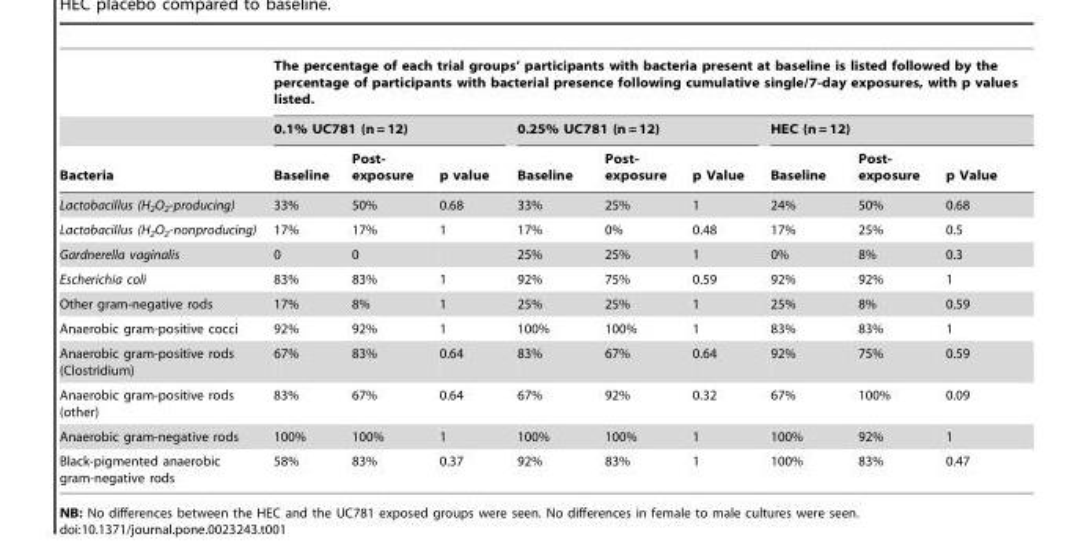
<table><thead><tr><td rowspan="3">Bacteria</td><td colspan="9">The percentage of each trial groups’ participants with bacteria present at baseline is listed followed by the percentage of participants with bacterial presence following cumulative single/7-day exposures, with p values listed.</td></tr><tr><td colspan="3">0.1% UC781 (n = 12)</td><td colspan="3">0.25% UC781 (n = 12)</td><td colspan="3">HEC (n = 12)</td></tr><tr><td>Baseline</td><td>Post- exposure</td><td>p value</td><td>Baseline</td><td>Post- exposure</td><td>p Value</td><td>Baseline</td><td>Post- exposure</td><td>p Value</td></tr></thead><tbody><tr><td>Lactobacillus (H<sub>2</sub>O<sub>2</sub>-producing)</td><td>33%</td><td>50%</td><td>0.68</td><td>33%</td><td>25%</td><td>1</td><td>24%</td><td>50%</td><td>0.68</td></tr><tr><td>Lactobacillus (H<sub>2</sub>O<sub>2</sub>-nonproducing)</td><td>17%</td><td>17%</td><td>1</td><td>17%</td><td>0%</td><td>0.48</td><td>17%</td><td>25%</td><td>0.5</td></tr><tr><td>Gardnerella vaginalis</td><td>0</td><td>0</td><td></td><td>25%</td><td>25%</td><td>1</td><td>0%</td><td>8%</td><td>0.3</td></tr><tr><td>Escherichia coli</td><td>83%</td><td>83%</td><td>1</td><td>92%</td><td>75%</td><td>0.59</td><td>92%</td><td>92%</td><td>1</td></tr><tr><td>Other gram-negative rods</td><td>17%</td><td>8%</td><td>1</td><td>25%</td><td>25%</td><td>1</td><td>25%</td><td>8%</td><td>0.59</td></tr><tr><td>Anaerobic gram-positive cocci</td><td>92%</td><td>92%</td><td>1</td><td>100%</td><td>100%</td><td>1</td><td>83%</td><td>83%</td><td>1</td></tr><tr><td>Anaerobic gram-positive rods (Clostridium)</td><td>67%</td><td>83%</td><td>0.64</td><td>83%</td><td>67%</td><td>0.64</td><td>92%</td><td>75%</td><td>0.59</td></tr><tr><td>Anaerobic gram-positive rods (other)</td><td>83%</td><td>67%</td><td>0.64</td><td>67%</td><td>92%</td><td>0.32</td><td>67%</td><td>100%</td><td>0.09</td></tr><tr><td>Anaerobic gram-negative rods</td><td>100%</td><td>100%</td><td>1</td><td>100%</td><td>100%</td><td>1</td><td>100%</td><td>92%</td><td>1</td></tr><tr><td>Black-pigmented anaerobic gram-negative rods</td><td>58%</td><td>83%</td><td>0.37</td><td>92%</td><td>83%</td><td>1</td><td>100%</td><td>83%</td><td>0.47</td></tr></tbody></table>